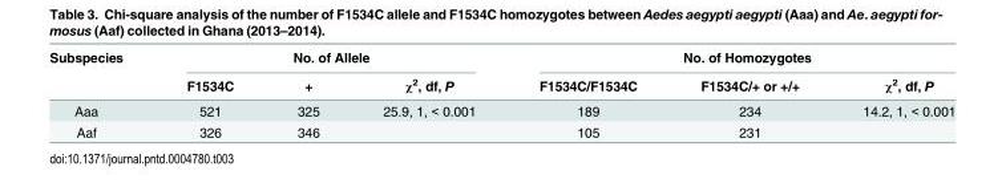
<table><thead><tr><td rowspan="2">Subspecies</td><td colspan="3">No. of Allele</td><td colspan="3">No. of Homozygotes</td></tr><tr><td>F1534C</td><td>+</td><td>χ<sup>2</sup>, df, P</td><td>F1534C/F1534C</td><td>F1534C/+ or +/+</td><td>χ<sup>2</sup>, df, P</td></tr></thead><tbody><tr><td>Aaa</td><td>521</td><td>325</td><td>25.9, 1, &lt; 0.001</td><td>189</td><td>234</td><td>14.2, 1, &lt; 0.001</td></tr><tr><td>Aaf</td><td>326</td><td>346</td><td></td><td>105</td><td>231</td><td></td></tr></tbody></table>